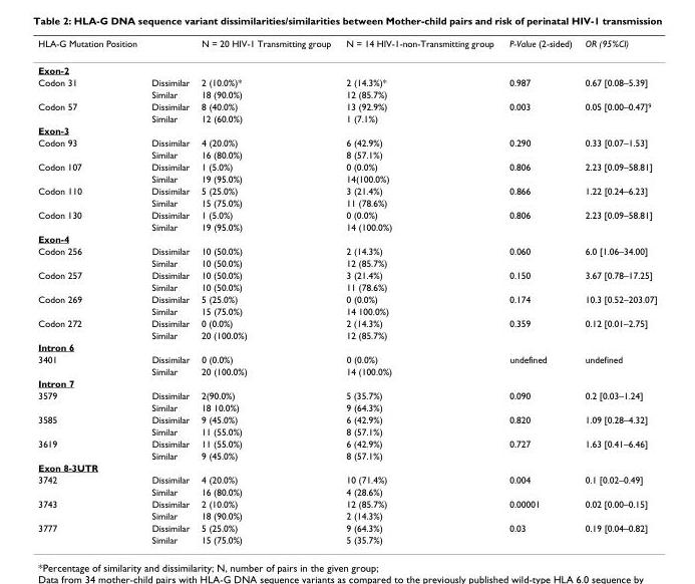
<table><thead><tr><td>HLA-G Mutation Position</td><td></td><td>N = 20 HIV-1 Transmitting group</td><td>N = 14 HIV-1-non-Transmitting group</td><td>P-Value (2-sided)</td><td>OR (95%CI)</td></tr></thead><tbody><tr><td colspan="6">Exon-2</td></tr><tr><td rowspan="2">Codon 31</td><td>Dissimilar</td><td>2 (10.0%)*</td><td>2 (14.3%)*</td><td>0.987</td><td>0.67 [0.08–5.39]</td></tr><tr><td>Similar</td><td>18 (90.0%)</td><td>12 (85.7%)</td><td></td><td></td></tr><tr><td rowspan="2">Codon 57</td><td>Dissimilar</td><td>8 (40.0%)</td><td>13 (92.9%)</td><td>0.003</td><td>0.05 [0.00–0.47]<sup>9</sup></td></tr><tr><td>Similar</td><td>12 (60.0%)</td><td>1 (7.1%)</td><td></td><td></td></tr><tr><td colspan="6">Exon-3</td></tr><tr><td rowspan="2">Codon 93</td><td>Dissimilar</td><td>4 (20.0%)</td><td>6 (42.9%)</td><td>0.290</td><td>0.33 [0.07–1.53]</td></tr><tr><td>Similar</td><td>16 (80.0%)</td><td>8 (57.1%)</td><td></td><td></td></tr><tr><td rowspan="2">Codon 107</td><td>Dissimilar</td><td>1 (5.0%)</td><td>0 (0.0%)</td><td>0.806</td><td>2.23 [0.09–58.81]</td></tr><tr><td>Similar</td><td>19 (95.0%)</td><td>14(100.0%)</td><td></td><td></td></tr><tr><td rowspan="2">Codon 110</td><td>Dissimilar</td><td>5 (25.0%)</td><td>3 (21.4%)</td><td>0.866</td><td>1.22 [0.24–6.23]</td></tr><tr><td>Similar</td><td>15 (75.0%)</td><td>11 (78.6%)</td><td></td><td></td></tr><tr><td rowspan="2">Codon 130</td><td>Dissimilar</td><td>1 (5.0%)</td><td>0 (0.0%)</td><td>0.806</td><td>2.23 [0.09–58.81]</td></tr><tr><td>Similar</td><td>19 (95.0%)</td><td>14 (100.0%)</td><td></td><td></td></tr><tr><td colspan="6">Exon-4</td></tr><tr><td rowspan="2">Codon 256</td><td>Dissimilar</td><td>10 (50.0%)</td><td>2 (14.3%)</td><td>0.060</td><td>6.0 [1.06–34.00]</td></tr><tr><td>Similar</td><td>10 (50.0%)</td><td>12 (85.7%)</td><td></td><td></td></tr><tr><td rowspan="2">Codon 257</td><td>Dissimilar</td><td>10 (50.0%)</td><td>3 (21.4%)</td><td>0.150</td><td>3.67 [0.78–17.25]</td></tr><tr><td>Similar</td><td>10 (50.0%)</td><td>11 (78.6%)</td><td></td><td></td></tr><tr><td rowspan="2">Codon 269</td><td>Dissimilar</td><td>5 (25.0%)</td><td>0 (0.0%)</td><td>0.174</td><td>10.3 [0.52–203.07]</td></tr><tr><td>Similar</td><td>15 (75.0%)</td><td>14 100.0%)</td><td></td><td></td></tr><tr><td rowspan="2">Codon 272</td><td>Dissimilar</td><td>0 (0.0%)</td><td>2 (14.3%)</td><td>0.359</td><td>0.12 [0.01–2.75]</td></tr><tr><td>Similar</td><td>20 (100.0%)</td><td>12 (85.7%)</td><td></td><td></td></tr><tr><td colspan="6">Intron 6</td></tr><tr><td rowspan="2">3401</td><td>Dissimilar</td><td>0 (0.0%)</td><td>0 (0.0%)</td><td>undefined</td><td>undefined</td></tr><tr><td>Similar</td><td>20 (100.0%)</td><td>14 (100.0%)</td><td></td><td></td></tr><tr><td colspan="6">Intron 7</td></tr><tr><td rowspan="2">3579</td><td>Dissimilar</td><td>2(90.0%)</td><td>5 (35.7%)</td><td>0.090</td><td>0.2 [0.03–1.24]</td></tr><tr><td>Similar</td><td>18 10.0%)</td><td>9 (64.3%)</td><td></td><td></td></tr><tr><td rowspan="2">3585</td><td>Dissimilar</td><td>9 (45.0%)</td><td>6 (42.9%)</td><td>0.820</td><td>1.09 [0.28–4.32]</td></tr><tr><td>Similar</td><td>11 (55.0%)</td><td>8 (57.1%)</td><td></td><td></td></tr><tr><td rowspan="2">3619</td><td>Dissimilar</td><td>11 (55.0%)</td><td>6 (42.9%)</td><td>0.727</td><td>1.63 [0.41–6.46]</td></tr><tr><td>Similar</td><td>9 (45.0%)</td><td>8 (57.1%)</td><td></td><td></td></tr><tr><td colspan="6">Exon 8-3UTR</td></tr><tr><td rowspan="2">3742</td><td>Dissimilar</td><td>4 (20.0%)</td><td>10 (71.4%)</td><td>0.004</td><td>0.1 [0.02–0.49]</td></tr><tr><td>Similar</td><td>16 (80.0%)</td><td>4 (28.6%)</td><td></td><td></td></tr><tr><td rowspan="2">3743</td><td>Dissimilar</td><td>2 (10.0%)</td><td>12 (85.7%)</td><td>0.00001</td><td>0.02 [0.00–0.15]</td></tr><tr><td>Similar</td><td>18 (90.0%)</td><td>2 (14.3%)</td><td></td><td></td></tr><tr><td rowspan="2">3777</td><td>Dissimilar</td><td>5 (25.0%)</td><td>9 (64.3%)</td><td>0.03</td><td>0.19 [0.04–0.82]</td></tr><tr><td>Similar</td><td>15 (75.0%)</td><td>5 (35.7%)</td><td></td><td></td></tr></tbody></table>